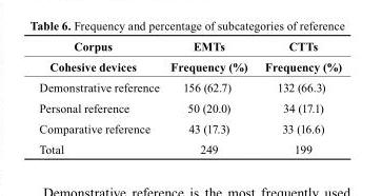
<table><thead><tr><td rowspan="2">corpus cohesive devices</td><td rowspan="2">EMts Frequency (%)</td><td rowspan="2">ctts Frequency (%)</td></tr><tr></tr></thead><tbody><tr><td>Demonstrative reference</td><td>156 (62.7)</td><td>132 (66.3)</td></tr><tr><td>Personal reference</td><td>50 (20.0)</td><td>34 (17.1)</td></tr><tr><td>Comparative reference</td><td>43 (17.3)</td><td>33 (16.6)</td></tr><tr><td>Total</td><td>249</td><td>199</td></tr></tbody></table>